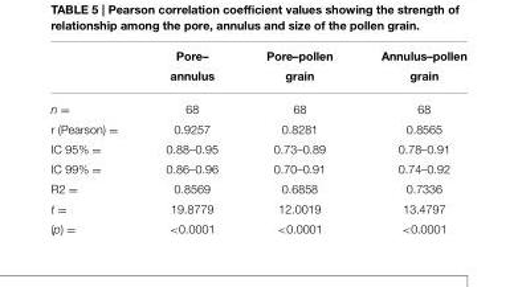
<table><thead><tr><td></td><td>Pore– annulus</td><td>Pore–pollen grain</td><td>Annulus–pollen grain</td></tr></thead><tbody><tr><td>n =</td><td>68</td><td>68</td><td>68</td></tr><tr><td>r (Pearson) =</td><td>0.9257</td><td>0.8281</td><td>0.8565</td></tr><tr><td>IC 95% =</td><td>0.88–0.95</td><td>0.73–0.89</td><td>0.78–0.91</td></tr><tr><td>IC 99% =</td><td>0.86–0.96</td><td>0.70–0.91</td><td>0.74–0.92</td></tr><tr><td>R2 =</td><td>0.8569</td><td>0.6858</td><td>0.7336</td></tr><tr><td>t =</td><td>19.8779</td><td>12.0019</td><td>13.4797</td></tr><tr><td>(p) =</td><td>&lt;0.0001</td><td>&lt;0.0001</td><td>&lt;0.0001</td></tr></tbody></table>